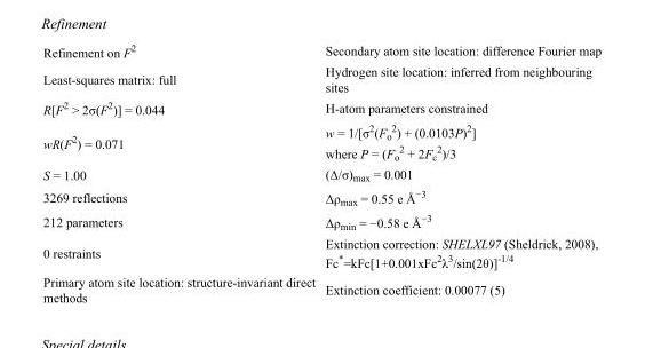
<table><tbody><tr><td>Refinement on F<sup>2</sup></td><td>Secondary atom site location: difference Fourier map</td></tr><tr><td>Least-squares matrix: full</td><td>Hydrogen site location: inferred from neighbouring sites</td></tr><tr><td>R[F<sup>2</sup> &gt; 2σ(F<sup>2</sup>)] = 0.044</td><td>H-atom parameters constrained</td></tr><tr><td>wR(F<sup>2</sup>) = 0.071</td><td>w = 1/[σ<sup>2</sup>(F<sub>o</sub> <sup>2</sup>) + (0.0103P)<sup>2</sup>] where P = (F<sub>o</sub> <sup>2</sup> + 2F<sub>c</sub> <sup>2</sup>)/3</td></tr><tr><td>S = 1.00</td><td>(Δ/σ)<sub>max</sub> = 0.001</td></tr><tr><td>3269 reflections</td><td>Δρ<sub>max</sub> = 0.55 e Å<sup>−3</sup></td></tr><tr><td>212 parameters</td><td>Δρ<sub>min</sub> = −0.58 e Å<sup>−3</sup></td></tr><tr><td>0 restraints</td><td>Extinction correction: SHELXL97 (Sheldrick, 2008), Fc*=kFc[1+0.001xFc<sup>2</sup>λ<sup>3</sup>/sin(2θ)]<sup>-1/4</sup></td></tr><tr><td>Primary atom site location: structure-invariant direct methods</td><td>Extinction coefficient: 0.00077 (5)</td></tr></tbody></table>